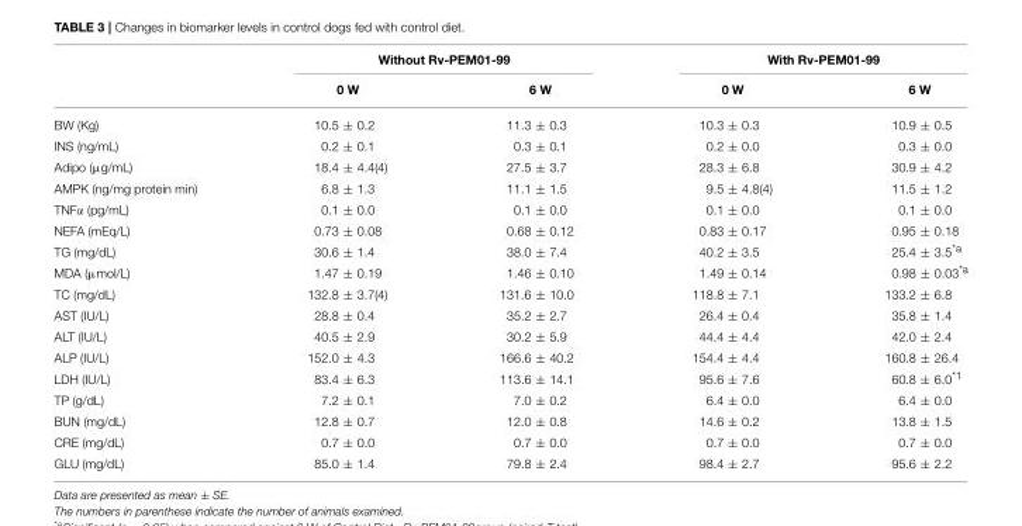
<table><thead><tr><td rowspan="2"></td><td colspan="2">Without Rv-PEM01-99</td><td colspan="2">With Rv-PEM01-99</td></tr><tr><td>0 W</td><td>6 W</td><td>0 W</td><td>6 W</td></tr></thead><tbody><tr><td>BW (Kg)</td><td>10.5 ± 0.2</td><td>11.3 ± 0.3</td><td>10.3 ± 0.3</td><td>10.9 ± 0.5</td></tr><tr><td>INS (ng/mL)</td><td>0.2 ± 0.1</td><td>0.3 ± 0.1</td><td>0.2 ± 0.0</td><td>0.3 ± 0.0</td></tr><tr><td>Adipo (µg/mL)</td><td>18.4 ± 4.4(4)</td><td>27.5 ± 3.7</td><td>28.3 ± 6.8</td><td>30.9 ± 4.2</td></tr><tr><td>AMPK (ng/mg protein min)</td><td>6.8 ± 1.3</td><td>11.1 ± 1.5</td><td>9.5 ± 4.8(4)</td><td>11.5 ± 1.2</td></tr><tr><td>TNFα (pg/mL)</td><td>0.1 ± 0.0</td><td>0.1 ± 0.0</td><td>0.1 ± 0.0</td><td>0.1 ± 0.0</td></tr><tr><td>NEFA (mEq/L)</td><td>0.73 ± 0.08</td><td>0.68 ± 0.12</td><td>0.83 ± 0.17</td><td>0.95 ± 0.18</td></tr><tr><td>TG (mg/dL)</td><td>30.6 ± 1.4</td><td>38.0 ± 7.4</td><td>40.2 ± 3.5</td><td>25.4 ± 3.5<sup>*a</sup></td></tr><tr><td>MDA (µmol/L)</td><td>1.47 ± 0.19</td><td>1.46 ± 0.10</td><td>1.49 ± 0.14</td><td>0.98 ± 0.03<sup>*a</sup></td></tr><tr><td>TC (mg/dL)</td><td>132.8 ± 3.7(4)</td><td>131.6 ± 10.0</td><td>118.8 ± 7.1</td><td>133.2 ± 6.8</td></tr><tr><td>AST (IU/L)</td><td>28.8 ± 0.4</td><td>35.2 ± 2.7</td><td>26.4 ± 0.4</td><td>35.8 ± 1.4</td></tr><tr><td>ALT (IU/L)</td><td>40.5 ± 2.9</td><td>30.2 ± 5.9</td><td>44.4 ± 4.4</td><td>42.0 ± 2.4</td></tr><tr><td>ALP (IU/L)</td><td>152.0 ± 4.3</td><td>166.6 ± 40.2</td><td>154.4 ± 4.4</td><td>160.8 ± 26.4</td></tr><tr><td>LDH (IU/L)</td><td>83.4 ± 6.3</td><td>113.6 ± 14.1</td><td>95.6 ± 7.6</td><td>60.8 ± 6.0<sup>*1</sup></td></tr><tr><td>TP (g/dL)</td><td>7.2 ± 0.1</td><td>7.0 ± 0.2</td><td>6.4 ± 0.0</td><td>6.4 ± 0.0</td></tr><tr><td>BUN (mg/dL)</td><td>12.8 ± 0.7</td><td>12.0 ± 0.8</td><td>14.6 ± 0.2</td><td>13.8 ± 1.5</td></tr><tr><td>CRE (mg/dL)</td><td>0.7 ± 0.0</td><td>0.7 ± 0.0</td><td>0.7 ± 0.0</td><td>0.7 ± 0.0</td></tr><tr><td>GLU (mg/dL)</td><td>85.0 ± 1.4</td><td>79.8 ± 2.4</td><td>98.4 ± 2.7</td><td>95.6 ± 2.2</td></tr></tbody></table>